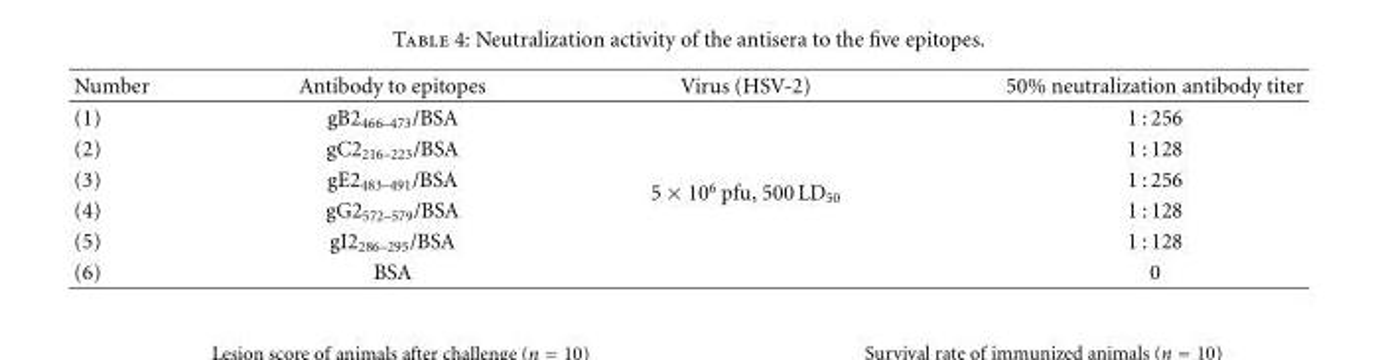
<table><thead><tr><td>Number</td><td>Antibody to epitopes</td><td>Virus (HSV-2)</td><td>50% neutralization antibody titer</td></tr></thead><tbody><tr><td>(1)</td><td>gB2<sub>466–473</sub>/BSA</td><td rowspan="6">5 × 10<sup>6</sup> pfu, 500 LD<sub>50</sub></td><td>1 : 256</td></tr><tr><td>(2)</td><td>gC2<sub>216–223</sub>/BSA</td><td>1 : 128</td></tr><tr><td>(3)</td><td>gE2<sub>483–491</sub>/BSA</td><td>1 : 256</td></tr><tr><td>(4)</td><td>gG2<sub>572–579</sub>/BSA</td><td>1 : 128</td></tr><tr><td>(5)</td><td>gI2<sub>286–295</sub>/BSA</td><td>1 : 128</td></tr><tr><td>(6)</td><td>BSA</td><td>0</td></tr></tbody></table>